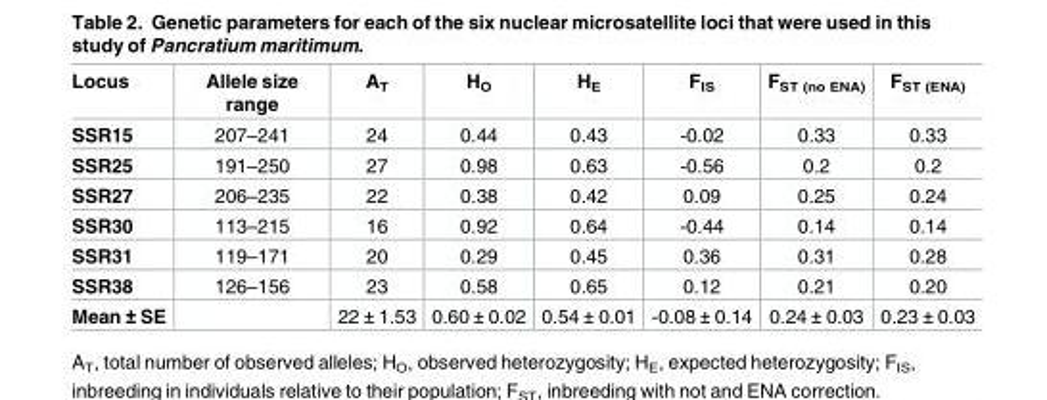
<table><thead><tr><td>Locus</td><td>Allele size range</td><td>A<sub>T</sub></td><td>H<sub>O</sub></td><td>H<sub>E</sub></td><td>F<sub>IS</sub></td><td>F<sub>ST (no ENA)</sub></td><td>F<sub>ST (ENA)</sub></td></tr></thead><tbody><tr><td>SSR15</td><td>207–241</td><td>24</td><td>0.44</td><td>0.43</td><td>-0.02</td><td>0.33</td><td>0.33</td></tr><tr><td>SSR25</td><td>191–250</td><td>27</td><td>0.98</td><td>0.63</td><td>-0.56</td><td>0.2</td><td>0.2</td></tr><tr><td>SSR27</td><td>206–235</td><td>22</td><td>0.38</td><td>0.42</td><td>0.09</td><td>0.25</td><td>0.24</td></tr><tr><td>SSR30</td><td>113–215</td><td>16</td><td>0.92</td><td>0.64</td><td>-0.44</td><td>0.14</td><td>0.14</td></tr><tr><td>SSR31</td><td>119–171</td><td>20</td><td>0.29</td><td>0.45</td><td>0.36</td><td>0.31</td><td>0.28</td></tr><tr><td>SSR38</td><td>126–156</td><td>23</td><td>0.58</td><td>0.65</td><td>0.12</td><td>0.21</td><td>0.20</td></tr><tr><td>Mean ± SE</td><td></td><td>22 ± 1.53</td><td>0.60 ± 0.02</td><td>0.54 ± 0.01</td><td>-0.08 ± 0.14</td><td>0.24 ± 0.03</td><td>0.23 ± 0.03</td></tr></tbody></table>